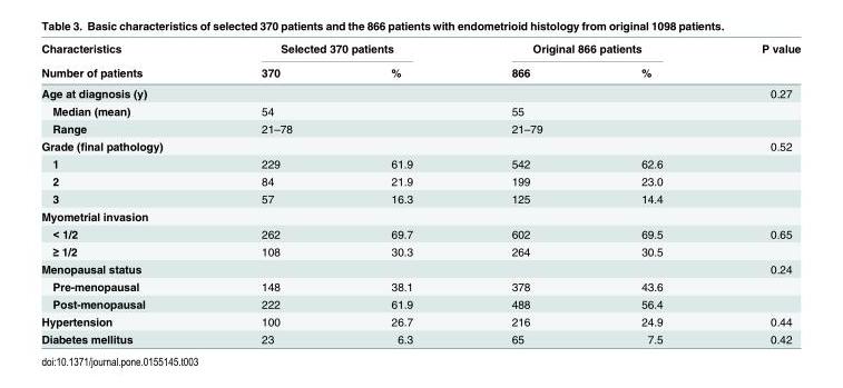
<table><thead><tr><td rowspan="2">Characteristics Number of patients</td><td colspan="2">Selected 370 patients</td><td colspan="2">Original 866 patients</td><td rowspan="2">P value</td></tr><tr><td>370</td><td>%</td><td>866</td><td>%</td></tr></thead><tbody><tr><td>Age at diagnosis (y)</td><td></td><td></td><td></td><td></td><td>0.27</td></tr><tr><td>Median (mean)</td><td>54</td><td></td><td>55</td><td></td><td></td></tr><tr><td>Range</td><td>21–78</td><td></td><td>21–79</td><td></td><td></td></tr><tr><td>Grade (final pathology)</td><td></td><td></td><td></td><td></td><td>0.52</td></tr><tr><td>1</td><td>229</td><td>61.9</td><td>542</td><td>62.6</td><td></td></tr><tr><td>2</td><td>84</td><td>21.9</td><td>199</td><td>23.0</td><td></td></tr><tr><td>3</td><td>57</td><td>16.3</td><td>125</td><td>14.4</td><td></td></tr><tr><td colspan="6">Myometrial invasion</td></tr><tr><td>&lt; 1/2</td><td>262</td><td>69.7</td><td>602</td><td>69.5</td><td>0.65</td></tr><tr><td>≥ 1/2</td><td>108</td><td>30.3</td><td>264</td><td>30.5</td><td></td></tr><tr><td>Menopausal status</td><td></td><td></td><td></td><td></td><td>0.24</td></tr><tr><td>Pre-menopausal</td><td>148</td><td>38.1</td><td>378</td><td>43.6</td><td></td></tr><tr><td>Post-menopausal</td><td>222</td><td>61.9</td><td>488</td><td>56.4</td><td></td></tr><tr><td>Hypertension</td><td>100</td><td>26.7</td><td>216</td><td>24.9</td><td>0.44</td></tr><tr><td>Diabetes mellitus</td><td>23</td><td>6.3</td><td>65</td><td>7.5</td><td>0.42</td></tr></tbody></table>